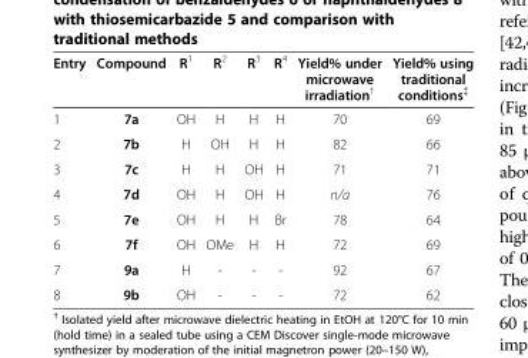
<table><thead><tr><td>Entry</td><td>Compound</td><td>R<sup>1</sup></td><td>R<sup>2</sup></td><td>R<sup>3</sup></td><td>R<sup>4</sup></td><td>Yield% under microwave irradiation<sup>†</sup></td><td>Yield% using traditional conditions<sup>‡</sup></td></tr></thead><tbody><tr><td>1</td><td>7a</td><td>OH</td><td>H</td><td>H</td><td>H</td><td>70</td><td>69</td></tr><tr><td>2</td><td>7b</td><td>H</td><td>OH</td><td>H</td><td>H</td><td>82</td><td>66</td></tr><tr><td>3</td><td>7c</td><td>H</td><td>H</td><td>OH</td><td>H</td><td>71</td><td>71</td></tr><tr><td>4</td><td>7d</td><td>OH</td><td>H</td><td>OH</td><td>H</td><td>n/a</td><td>76</td></tr><tr><td>5</td><td>7e</td><td>OH</td><td>H</td><td>H</td><td>Br</td><td>78</td><td>64</td></tr><tr><td>6</td><td>7f</td><td>OH</td><td>OMe</td><td>H</td><td>H</td><td>72</td><td>69</td></tr><tr><td>7</td><td>9a</td><td>H</td><td>-</td><td>-</td><td>-</td><td>92</td><td>67</td></tr><tr><td>8</td><td>9b</td><td>OH</td><td>-</td><td>-</td><td>-</td><td>72</td><td>62</td></tr></tbody></table>